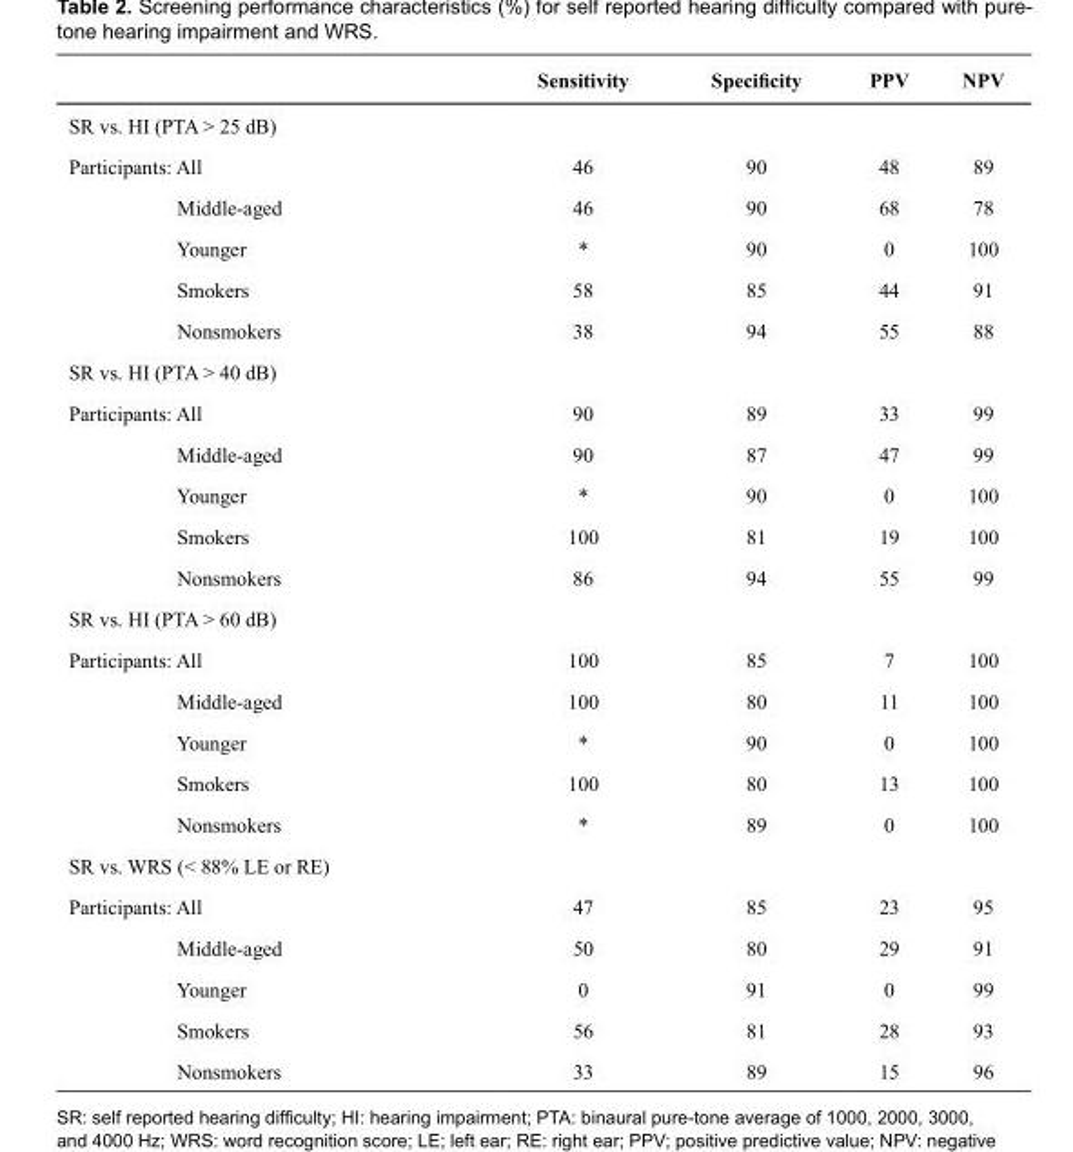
<table><thead><tr><td></td><td>Sensitivity</td><td>Specificity</td><td>PPV</td><td>NPV</td></tr></thead><tbody><tr><td colspan="5">SR vs. HI (PTA &gt; 25 dB)</td></tr><tr><td>Participants: All</td><td>46</td><td>90</td><td>48</td><td>89</td></tr><tr><td>Middle-aged</td><td>46</td><td>90</td><td>68</td><td>78</td></tr><tr><td>Younger</td><td>*</td><td>90</td><td>0</td><td>100</td></tr><tr><td>Smokers</td><td>58</td><td>85</td><td>44</td><td>91</td></tr><tr><td>Nonsmokers</td><td>38</td><td>94</td><td>55</td><td>88</td></tr><tr><td colspan="5">SR vs. HI (PTA &gt; 40 dB)</td></tr><tr><td>Participants: All</td><td>90</td><td>89</td><td>33</td><td>99</td></tr><tr><td>Middle-aged</td><td>90</td><td>87</td><td>47</td><td>99</td></tr><tr><td>Younger</td><td>*</td><td>90</td><td>0</td><td>100</td></tr><tr><td>Smokers</td><td>100</td><td>81</td><td>19</td><td>100</td></tr><tr><td>Nonsmokers</td><td>86</td><td>94</td><td>55</td><td>99</td></tr><tr><td colspan="5">SR vs. HI (PTA &gt; 60 dB)</td></tr><tr><td>Participants: All</td><td>100</td><td>85</td><td>7</td><td>100</td></tr><tr><td>Middle-aged</td><td>100</td><td>80</td><td>11</td><td>100</td></tr><tr><td>Younger</td><td>*</td><td>90</td><td>0</td><td>100</td></tr><tr><td>Smokers</td><td>100</td><td>80</td><td>13</td><td>100</td></tr><tr><td>Nonsmokers</td><td>*</td><td>89</td><td>0</td><td>100</td></tr><tr><td colspan="5">SR vs. WRS (&lt; 88% LE or RE)</td></tr><tr><td>Participants: All</td><td>47</td><td>85</td><td>23</td><td>95</td></tr><tr><td>Middle-aged</td><td>50</td><td>80</td><td>29</td><td>91</td></tr><tr><td>Younger</td><td>0</td><td>91</td><td>0</td><td>99</td></tr><tr><td>Smokers</td><td>56</td><td>81</td><td>28</td><td>93</td></tr><tr><td>Nonsmokers</td><td>33</td><td>89</td><td>15</td><td>96</td></tr></tbody></table>